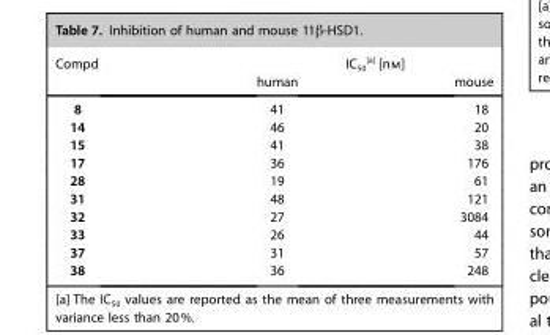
<table><thead><tr><td rowspan="2">Compd</td><td colspan="2">IC<sub>50</sub> [a] [nm]</td></tr><tr><td>human</td><td>mouse</td></tr></thead><tbody><tr><td>8</td><td>41</td><td>18</td></tr><tr><td>14</td><td>46</td><td>20</td></tr><tr><td>15</td><td>41</td><td>38</td></tr><tr><td>17</td><td>36</td><td>176</td></tr><tr><td>28</td><td>19</td><td>61</td></tr><tr><td>31</td><td>48</td><td>121</td></tr><tr><td>32</td><td>27</td><td>3084</td></tr><tr><td>33</td><td>26</td><td>44</td></tr><tr><td>37</td><td>31</td><td>57</td></tr><tr><td>38</td><td>36</td><td>248</td></tr></tbody></table>